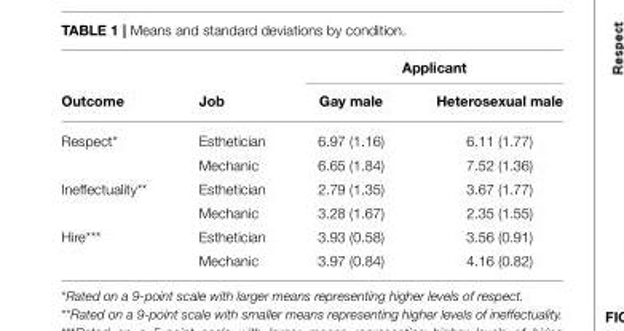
<table><thead><tr><td rowspan="2">Outcome</td><td rowspan="2">Job</td><td colspan="2">Applicant</td></tr><tr><td>Gay male</td><td>Heterosexual male</td></tr></thead><tbody><tr><td rowspan="2">Respect*</td><td>Esthetician</td><td>6.97 (1.16)</td><td>6.11 (1.77)</td></tr><tr><td>Mechanic</td><td>6.65 (1.84)</td><td>7.52 (1.36)</td></tr><tr><td rowspan="2">Ineffectuality**</td><td>Esthetician</td><td>2.79 (1.35)</td><td>3.67 (1.77)</td></tr><tr><td>Mechanic</td><td>3.28 (1.67)</td><td>2.35 (1.55)</td></tr><tr><td rowspan="2">Hire***</td><td>Esthetician</td><td>3.93 (0.58)</td><td>3.56 (0.91)</td></tr><tr><td>Mechanic</td><td>3.97 (0.84)</td><td>4.16 (0.82)</td></tr></tbody></table>